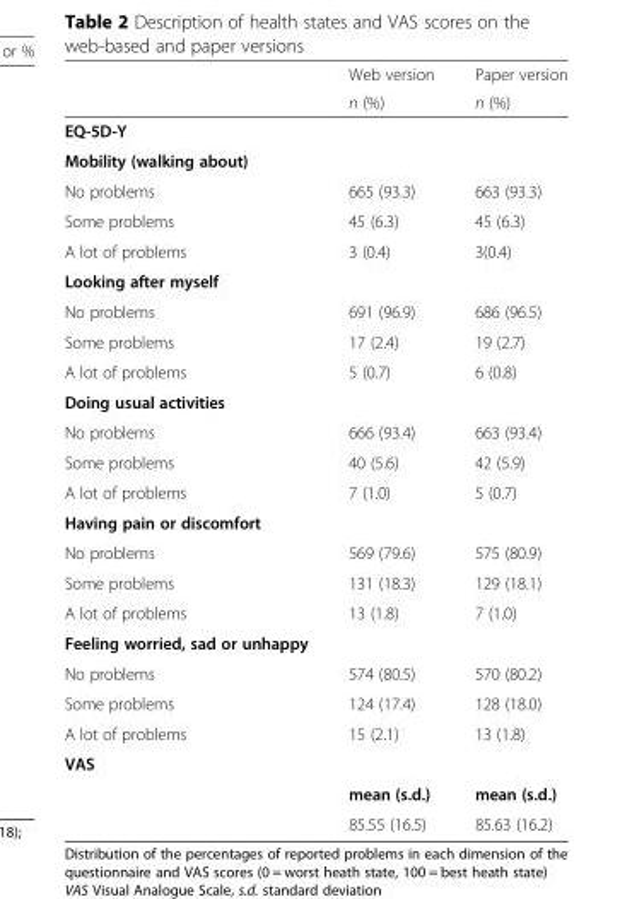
<table><thead><tr><td rowspan="2"></td><td rowspan="2">Web version n (%)</td><td rowspan="2">Paper version n (%)</td></tr><tr></tr></thead><tbody><tr><td colspan="3">EQ-5D-Y</td></tr><tr><td colspan="3">Mobility (walking about)</td></tr><tr><td>No problems</td><td>665 (93.3)</td><td>663 (93.3)</td></tr><tr><td>Some problems</td><td>45 (6.3)</td><td>45 (6.3)</td></tr><tr><td>A lot of problems</td><td>3 (0.4)</td><td>3(0.4)</td></tr><tr><td colspan="3">Looking after myself</td></tr><tr><td>No problems</td><td>691 (96.9)</td><td>686 (96.5)</td></tr><tr><td>Some problems</td><td>17 (2.4)</td><td>19 (2.7)</td></tr><tr><td>A lot of problems</td><td>5 (0.7)</td><td>6 (0.8)</td></tr><tr><td colspan="3">Doing usual activities</td></tr><tr><td>No problems</td><td>666 (93.4)</td><td>663 (93.4)</td></tr><tr><td>Some problems</td><td>40 (5.6)</td><td>42 (5.9)</td></tr><tr><td>A lot of problems</td><td>7 (1.0)</td><td>5 (0.7)</td></tr><tr><td colspan="3">Having pain or discomfort</td></tr><tr><td>No problems</td><td>569 (79.6)</td><td>575 (80.9)</td></tr><tr><td>Some problems</td><td>131 (18.3)</td><td>129 (18.1)</td></tr><tr><td>A lot of problems</td><td>13 (1.8)</td><td>7 (1.0)</td></tr><tr><td colspan="3">Feeling worried, sad or unhappy</td></tr><tr><td>No problems</td><td>574 (80.5)</td><td>570 (80.2)</td></tr><tr><td>Some problems</td><td>124 (17.4)</td><td>128 (18.0)</td></tr><tr><td>A lot of problems</td><td>15 (2.1)</td><td>13 (1.8)</td></tr><tr><td colspan="3">VAS</td></tr><tr><td></td><td>mean (s.d.)</td><td>mean (s.d.)</td></tr><tr><td></td><td>85.55 (16.5)</td><td>85.63 (16.2)</td></tr></tbody></table>